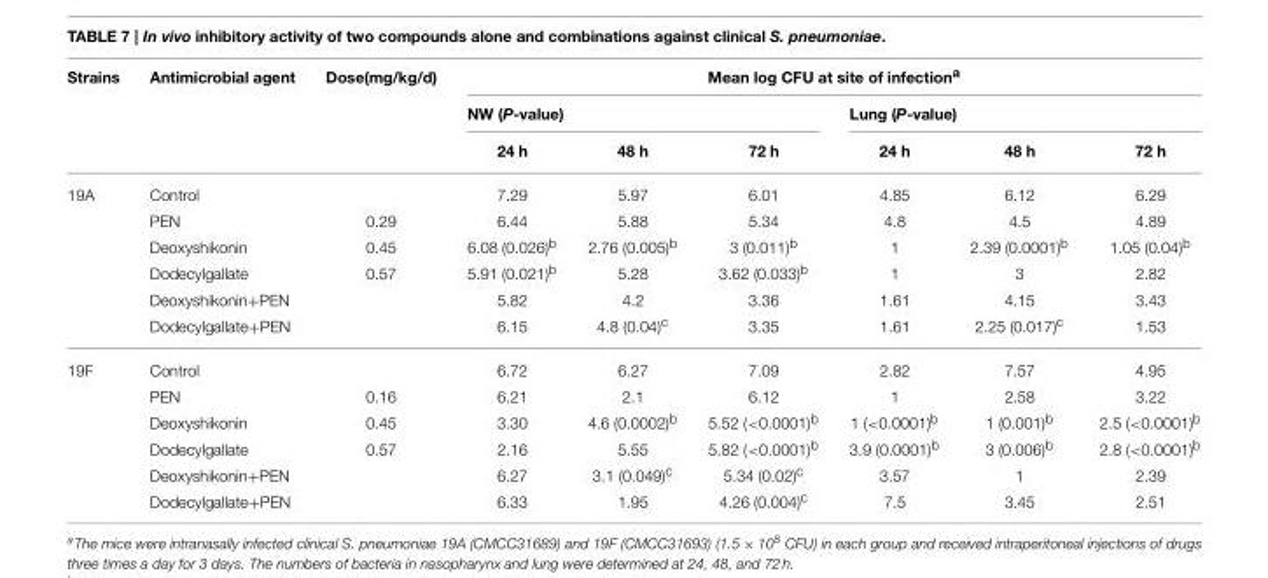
<table><thead><tr><td rowspan="3">Strains</td><td rowspan="3">Antimicrobial agent</td><td rowspan="3">Dose(mg/kg/d)</td><td colspan="6">Mean log CFU at site of infection<sup>a</sup></td></tr><tr><td colspan="3">NW (P-value)</td><td colspan="3">Lung (P-value)</td></tr><tr><td>24 h</td><td>48 h</td><td>72 h</td><td>24 h</td><td>48 h</td><td>72 h</td></tr></thead><tbody><tr><td rowspan="6">19A</td><td>Control</td><td></td><td>7.29</td><td>5.97</td><td>6.01</td><td>4.85</td><td>6.12</td><td>6.29</td></tr><tr><td>PEN</td><td>0.29</td><td>6.44</td><td>5.88</td><td>5.34</td><td>4.8</td><td>4.5</td><td>4.89</td></tr><tr><td>Deoxyshikonin</td><td>0.45</td><td>6.08 (0.026)<sup>b</sup></td><td>2.76 (0.005)<sup>b</sup></td><td>3 (0.011)<sup>b</sup></td><td>1</td><td>2.39 (0.0001)<sup>b</sup></td><td>1.05 (0.04)<sup>b</sup></td></tr><tr><td>Dodecylgallate</td><td>0.57</td><td>5.91 (0.021)<sup>b</sup></td><td>5.28</td><td>3.62 (0.033)<sup>b</sup></td><td>1</td><td>3</td><td>2.82</td></tr><tr><td>Deoxyshikonin+PEN</td><td></td><td>5.82</td><td>4.2</td><td>3.36</td><td>1.61</td><td>4.15</td><td>3.43</td></tr><tr><td>Dodecylgallate+PEN</td><td></td><td>6.15</td><td>4.8 (0.04)<sup>c</sup></td><td>3.35</td><td>1.61</td><td>2.25 (0.017)<sup>c</sup></td><td>1.53</td></tr><tr><td rowspan="6">19F</td><td>Control</td><td></td><td>6.72</td><td>6.27</td><td>7.09</td><td>2.82</td><td>7.57</td><td>4.95</td></tr><tr><td>PEN</td><td>0.16</td><td>6.21</td><td>2.1</td><td>6.12</td><td>1</td><td>2.58</td><td>3.22</td></tr><tr><td>Deoxyshikonin</td><td>0.45</td><td>3.30</td><td>4.6 (0.0002)<sup>b</sup></td><td>5.52 (&lt;0.0001)<sup>b</sup></td><td>1 (&lt;0.0001)<sup>b</sup></td><td>1 (0.001)<sup>b</sup></td><td>2.5 (&lt;0.0001)<sup>b</sup></td></tr><tr><td>Dodecylgallate</td><td>0.57</td><td>2.16</td><td>5.55</td><td>5.82 (&lt;0.0001)<sup>b</sup></td><td>3.9 (0.0001)<sup>b</sup></td><td>3 (0.006)<sup>b</sup></td><td>2.8 (&lt;0.0001)<sup>b</sup></td></tr><tr><td>Deoxyshikonin+PEN</td><td></td><td>6.27</td><td>3.1 (0.049)<sup>c</sup></td><td>5.34 (0.02)<sup>c</sup></td><td>3.57</td><td>1</td><td>2.39</td></tr><tr><td>Dodecylgallate+PEN</td><td></td><td>6.33</td><td>1.95</td><td>4.26 (0.004)<sup>c</sup></td><td>7.5</td><td>3.45</td><td>2.51</td></tr></tbody></table>